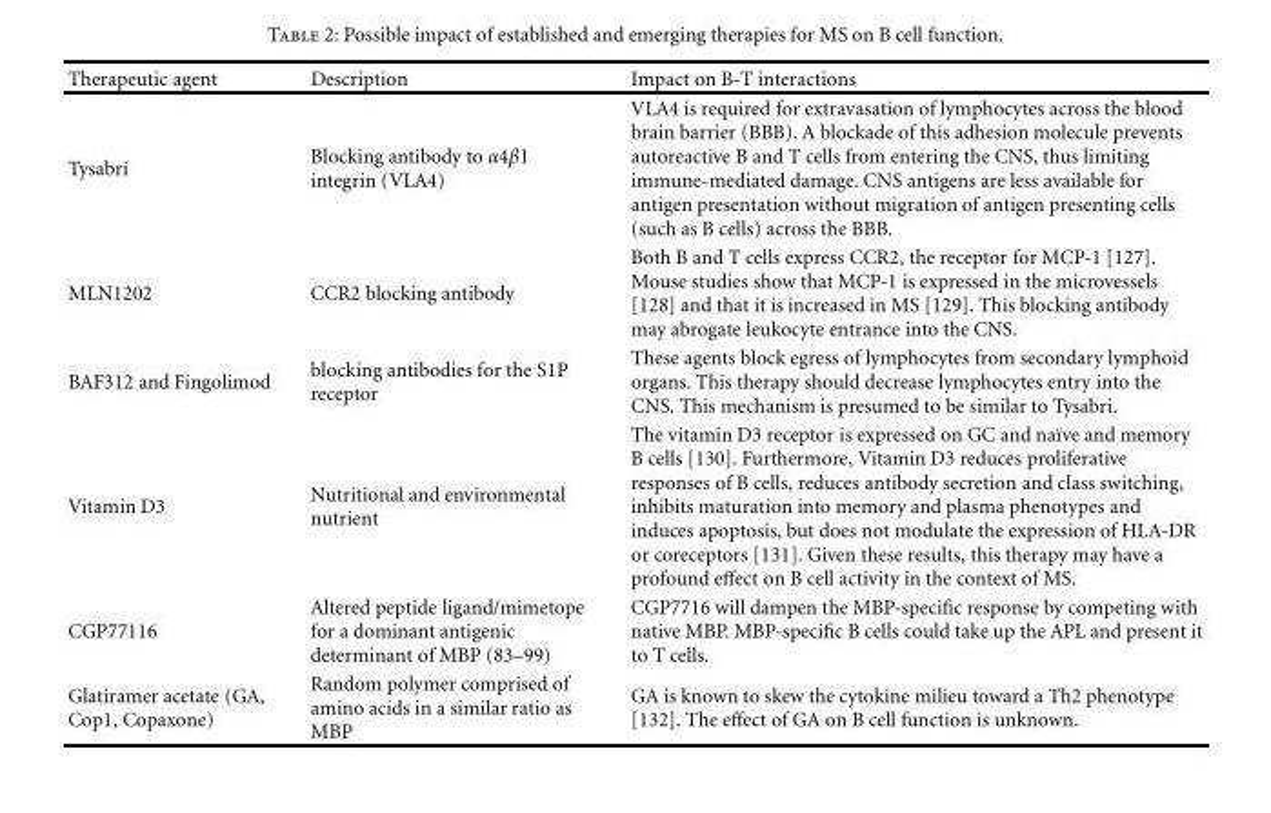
<table><thead><tr><td>Therapeutic agent</td><td>Description</td><td>Impact on B-T interactions</td></tr></thead><tbody><tr><td>Tysabri</td><td>Blocking antibody to α4β1 integrin (VLA4)</td><td>VLA4 is required for extravasation of lymphocytes across the blood brain barrier (BBB). A blockade of this adhesion molecule prevents autoreactive B and T cells from entering the CNS, thus limiting immune-mediated damage. CNS antigens are less available for antigen presentation without migration of antigen presenting cells (such as B cells) across the BBB.</td></tr><tr><td>MLN1202</td><td>CCR2 blocking antibody</td><td>Both B and T cells express CCR2, the receptor for MCP-1 [127]. Mouse studies show that MCP-1 is expressed in the microvessels [128] and that it is increased in MS [129]. This blocking antibody may abrogate leukocyte entrance into the CNS.</td></tr><tr><td>BAF312 and Fingolimod</td><td>blocking antibodies for the S1P receptor</td><td>These agents block egress of lymphocytes from secondary lymphoid organs. This therapy should decrease lymphocytes entry into the CNS. This mechanism is presumed to be similar to Tysabri.</td></tr><tr><td>Vitamin D3</td><td>Nutritional and environmental nutrient</td><td>The vitamin D3 receptor is expressed on GC and na¨ıve and memory B cells [130]. Furthermore, Vitamin D3 reduces proliferative responses of B cells, reduces antibody secretion and class switching, inhibits maturation into memory and plasma phenotypes and induces apoptosis, but does not modulate the expression of HLA-DR or coreceptors [131]. Given these results, this therapy may have a profound effect on B cell activity in the context of MS.</td></tr><tr><td>CGP77116</td><td>Altered peptide ligand/mimetope for a dominant antigenic determinant of MBP (83–99)</td><td>CGP7716 will dampen the MBP-specific response by competing with native MBP. MBP-specific B cells could take up the APL and present it to T cells.</td></tr><tr><td>Glatiramer acetate (GA, Cop1, Copaxone)</td><td>Random polymer comprised of amino acids in a similar ratio as MBP</td><td>GA is known to skew the cytokine milieu toward a Th2 phenotype [132]. The effect of GA on B cell function is unknown.</td></tr></tbody></table>